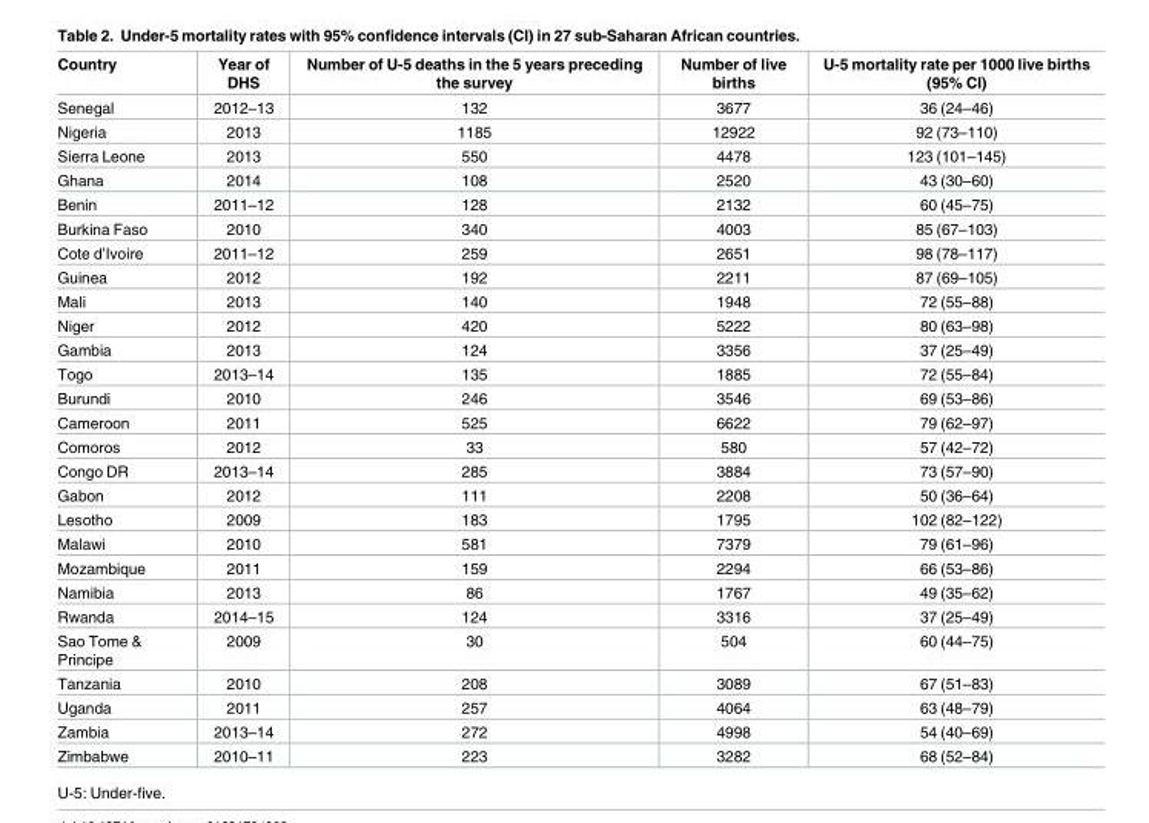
<table><thead><tr><td>Country</td><td>Year of DHS</td><td>Number of U-5 deaths in the 5 years preceding the survey</td><td>Number of live births</td><td>U-5 mortality rate per 1000 live births (95% CI)</td></tr></thead><tbody><tr><td>Senegal</td><td>2012–13</td><td>132</td><td>3677</td><td>36 (24–46)</td></tr><tr><td>Nigeria</td><td>2013</td><td>1185</td><td>12922</td><td>92 (73–110)</td></tr><tr><td>Sierra Leone</td><td>2013</td><td>550</td><td>4478</td><td>123 (101–145)</td></tr><tr><td>Ghana</td><td>2014</td><td>108</td><td>2520</td><td>43 (30–60)</td></tr><tr><td>Benin</td><td>2011–12</td><td>128</td><td>2132</td><td>60 (45–75)</td></tr><tr><td>Burkina Faso</td><td>2010</td><td>340</td><td>4003</td><td>85 (67–103)</td></tr><tr><td>Cote d’Ivoire</td><td>2011–12</td><td>259</td><td>2651</td><td>98 (78–117)</td></tr><tr><td>Guinea</td><td>2012</td><td>192</td><td>2211</td><td>87 (69–105)</td></tr><tr><td>Mali</td><td>2013</td><td>140</td><td>1948</td><td>72 (55–88)</td></tr><tr><td>Niger</td><td>2012</td><td>420</td><td>5222</td><td>80 (63–98)</td></tr><tr><td>Gambia</td><td>2013</td><td>124</td><td>3356</td><td>37 (25–49)</td></tr><tr><td>Togo</td><td>2013–14</td><td>135</td><td>1885</td><td>72 (55–84)</td></tr><tr><td>Burundi</td><td>2010</td><td>246</td><td>3546</td><td>69 (53–86)</td></tr><tr><td>Cameroon</td><td>2011</td><td>525</td><td>6622</td><td>79 (62–97)</td></tr><tr><td>Comoros</td><td>2012</td><td>33</td><td>580</td><td>57 (42–72)</td></tr><tr><td>Congo DR</td><td>2013–14</td><td>285</td><td>3884</td><td>73 (57–90)</td></tr><tr><td>Gabon</td><td>2012</td><td>111</td><td>2208</td><td>50 (36–64)</td></tr><tr><td>Lesotho</td><td>2009</td><td>183</td><td>1795</td><td>102 (82–122)</td></tr><tr><td>Malawi</td><td>2010</td><td>581</td><td>7379</td><td>79 (61–96)</td></tr><tr><td>Mozambique</td><td>2011</td><td>159</td><td>2294</td><td>66 (53–86)</td></tr><tr><td>Namibia</td><td>2013</td><td>86</td><td>1767</td><td>49 (35–62)</td></tr><tr><td>Rwanda</td><td>2014–15</td><td>124</td><td>3316</td><td>37 (25–49)</td></tr><tr><td>Sao Tome &amp; Principe</td><td>2009</td><td>30</td><td>504</td><td>60 (44–75)</td></tr><tr><td>Tanzania</td><td>2010</td><td>208</td><td>3089</td><td>67 (51–83)</td></tr><tr><td>Uganda</td><td>2011</td><td>257</td><td>4064</td><td>63 (48–79)</td></tr><tr><td>Zambia</td><td>2013–14</td><td>272</td><td>4998</td><td>54 (40–69)</td></tr><tr><td>Zimbabwe</td><td>2010–11</td><td>223</td><td>3282</td><td>68 (52–84)</td></tr></tbody></table>